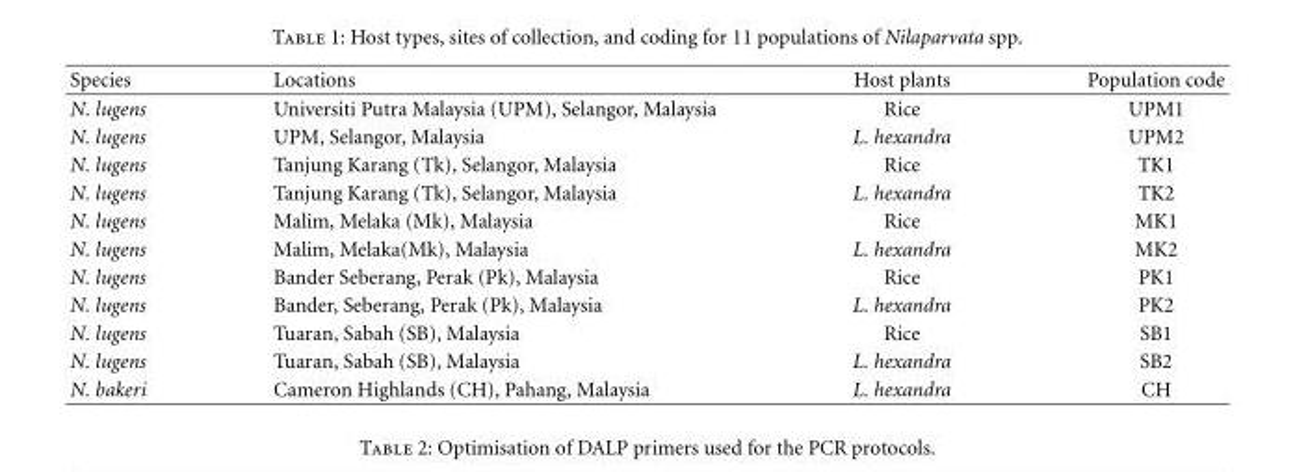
<table><thead><tr><td>Species</td><td>Locations</td><td>Host plants</td><td>Population code</td></tr></thead><tbody><tr><td>N. lugens</td><td>Universiti Putra Malaysia (UPM), Selangor, Malaysia</td><td>Rice</td><td>UPM1</td></tr><tr><td>N. lugens</td><td>UPM, Selangor, Malaysia</td><td>L. hexandra</td><td>UPM2</td></tr><tr><td>N. lugens</td><td>Tanjung Karang (Tk), Selangor, Malaysia</td><td>Rice</td><td>TK1</td></tr><tr><td>N. lugens</td><td>Tanjung Karang (Tk), Selangor, Malaysia</td><td>L. hexandra</td><td>TK2</td></tr><tr><td>N. lugens</td><td>Malim, Melaka (Mk), Malaysia</td><td>Rice</td><td>MK1</td></tr><tr><td>N. lugens</td><td>Malim, Melaka(Mk), Malaysia</td><td>L. hexandra</td><td>MK2</td></tr><tr><td>N. lugens</td><td>Bander Seberang, Perak (Pk), Malaysia</td><td>Rice</td><td>PK1</td></tr><tr><td>N. lugens</td><td>Bander, Seberang, Perak (Pk), Malaysia</td><td>L. hexandra</td><td>PK2</td></tr><tr><td>N. lugens</td><td>Tuaran, Sabah (SB), Malaysia</td><td>Rice</td><td>SB1</td></tr><tr><td>N. lugens</td><td>Tuaran, Sabah (SB), Malaysia</td><td>L. hexandra</td><td>SB2</td></tr><tr><td>N. bakeri</td><td>Cameron Highlands (CH), Pahang, Malaysia</td><td>L. hexandra</td><td>CH</td></tr></tbody></table>